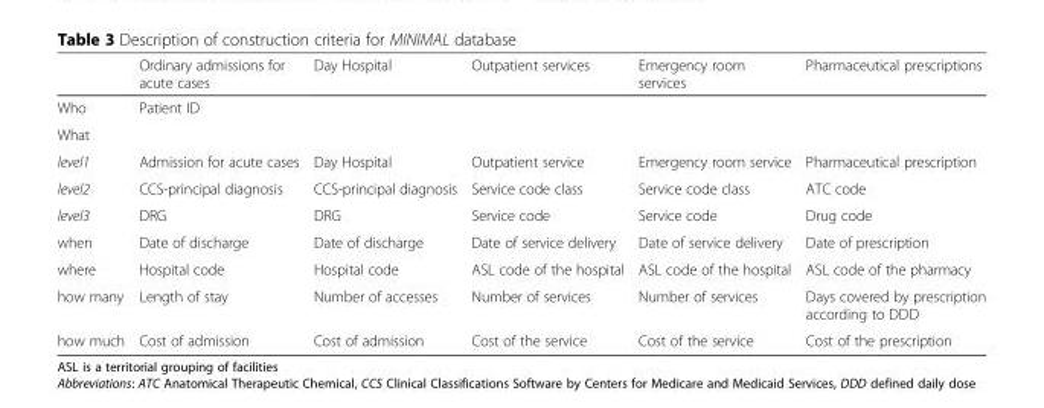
<table><thead><tr><td></td><td>Ordinary admissions for acute cases</td><td>Day Hospital</td><td>Outpatient services</td><td>Emergency room services</td><td>Pharmaceutical prescriptions</td></tr></thead><tbody><tr><td>Who</td><td colspan="5">Patient ID</td></tr><tr><td colspan="6">What</td></tr><tr><td>level1</td><td>Admission for acute cases</td><td>Day Hospital</td><td>Outpatient service</td><td>Emergency room service</td><td>Pharmaceutical prescription</td></tr><tr><td>level2</td><td>CCS-principal diagnosis</td><td>CCS-principal diagnosis</td><td>Service code class</td><td>Service code class</td><td>ATC code</td></tr><tr><td>level3</td><td>DRG</td><td>DRG</td><td>Service code</td><td>Service code</td><td>Drug code</td></tr><tr><td>when</td><td>Date of discharge</td><td>Date of discharge</td><td>Date of service delivery</td><td>Date of service delivery</td><td>Date of prescription</td></tr><tr><td>where</td><td>Hospital code</td><td>Hospital code</td><td>ASL code of the hospital</td><td>ASL code of the hospital</td><td>ASL code of the pharmacy</td></tr><tr><td>how many</td><td>Length of stay</td><td>Number of accesses</td><td>Number of services</td><td>Number of services</td><td>Days covered by prescription according to DDD</td></tr><tr><td>how much</td><td>Cost of admission</td><td>Cost of admission</td><td>Cost of the service</td><td>Cost of the service</td><td>Cost of the prescription</td></tr></tbody></table>